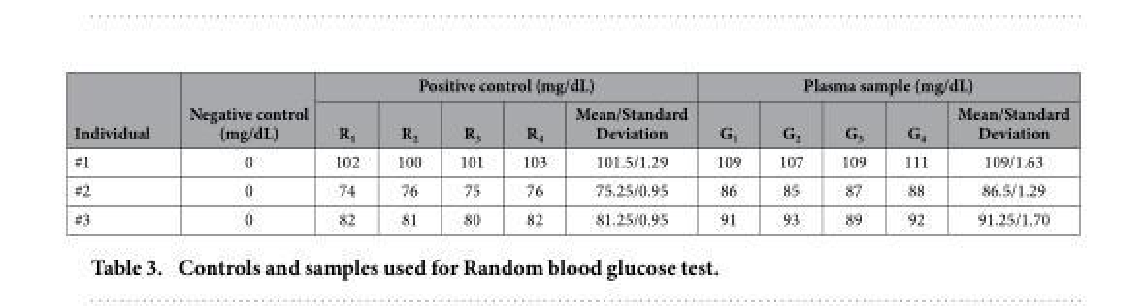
<table><thead><tr><td rowspan="2">Individual</td><td rowspan="2">Negative control (mg/dL)</td><td colspan="5">Positive control (mg/dL)</td><td colspan="5">Plasma sample (mg/dL)</td></tr><tr><td>R<sub>1</sub></td><td>R<sub>2</sub></td><td>R<sub>3</sub></td><td>R<sub>4</sub></td><td>Mean/Standard Deviation</td><td>G<sub>1</sub></td><td>G<sub>2</sub></td><td>G<sub>3</sub></td><td>G<sub>4</sub></td><td>Mean/Standard Deviation</td></tr></thead><tbody><tr><td>#1</td><td>0</td><td>102</td><td>100</td><td>101</td><td>103</td><td>101.5/1.29</td><td>109</td><td>107</td><td>109</td><td>111</td><td>109/1.63</td></tr><tr><td>#2</td><td>0</td><td>74</td><td>76</td><td>75</td><td>76</td><td>75.25/0.95</td><td>86</td><td>85</td><td>87</td><td>88</td><td>86.5/1.29</td></tr><tr><td>#3</td><td>0</td><td>82</td><td>81</td><td>80</td><td>82</td><td>81.25/0.95</td><td>91</td><td>93</td><td>89</td><td>92</td><td>91.25/1.70</td></tr></tbody></table>